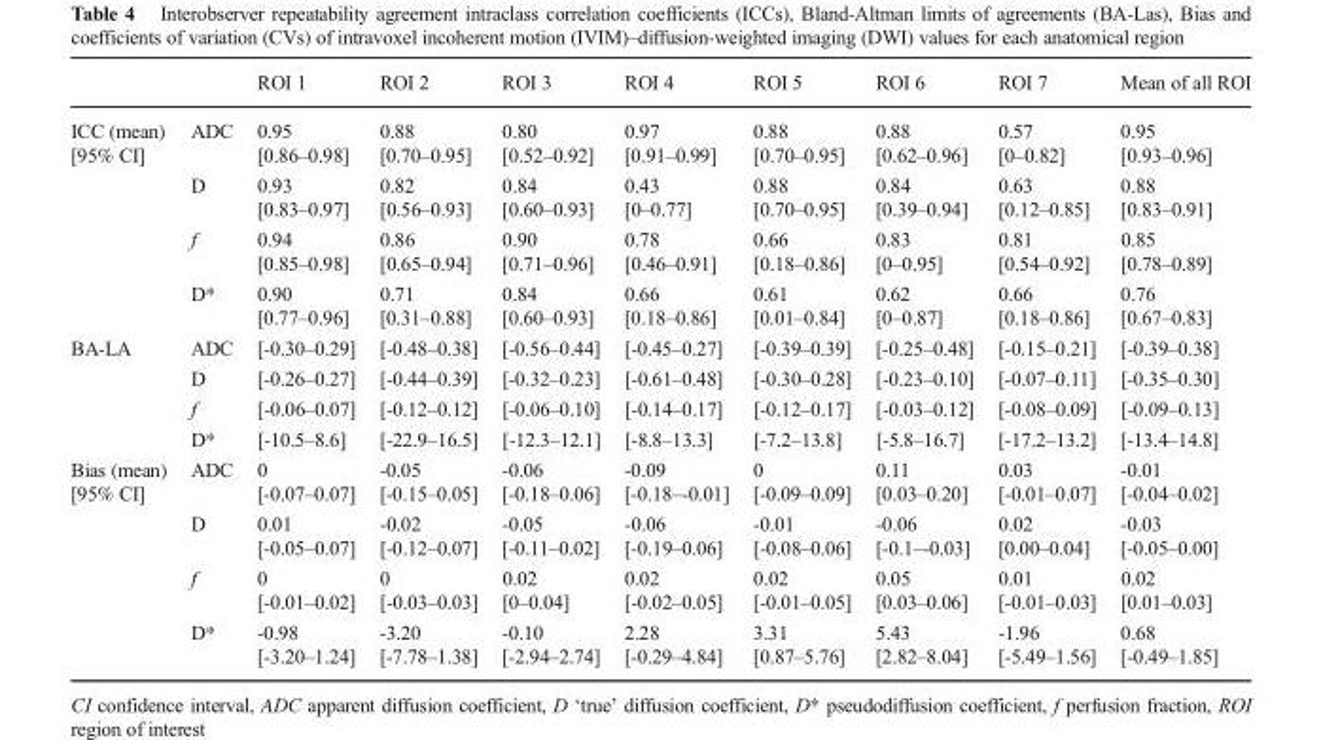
<table><thead><tr><td></td><td></td><td>ROI 1</td><td>ROI 2</td><td>ROI 3</td><td>ROI 4</td><td>ROI 5</td><td>ROI 6</td><td>ROI 7</td><td>Mean of all ROI</td></tr></thead><tbody><tr><td rowspan="4">ICC (mean) [95% CI]</td><td>ADC</td><td>0.95 [0.86–0.98]</td><td>0.88 [0.70–0.95]</td><td>0.80 [0.52–0.92]</td><td>0.97 [0.91–0.99]</td><td>0.88 [0.70–0.95]</td><td>0.88 [0.62–0.96]</td><td>0.57 [0–0.82]</td><td>0.95 [0.93–0.96]</td></tr><tr><td>D</td><td>0.93 [0.83–0.97]</td><td>0.82 [0.56–0.93]</td><td>0.84 [0.60–0.93]</td><td>0.43 [0–0.77]</td><td>0.88 [0.70–0.95]</td><td>0.84 [0.39–0.94]</td><td>0.63 [0.12–0.85]</td><td>0.88 [0.83–0.91]</td></tr><tr><td>f</td><td>0.94 [0.85–0.98]</td><td>0.86 [0.65–0.94]</td><td>0.90 [0.71–0.96]</td><td>0.78 [0.46–0.91]</td><td>0.66 [0.18–0.86]</td><td>0.83 [0–0.95]</td><td>0.81 [0.54–0.92]</td><td>0.85 [0.78–0.89]</td></tr><tr><td>D*</td><td>0.90 [0.77–0.96]</td><td>0.71 [0.31–0.88]</td><td>0.84 [0.60–0.93]</td><td>0.66 [0.18–0.86]</td><td>0.61 [0.01–0.84]</td><td>0.62 [0–0.87]</td><td>0.66 [0.18–0.86]</td><td>0.76 [0.67–0.83]</td></tr><tr><td rowspan="4">BA-LA</td><td>ADC</td><td>[-0.30–0.29]</td><td>[-0.48–0.38]</td><td>[-0.56–0.44]</td><td>[-0.45–0.27]</td><td>[-0.39–0.39]</td><td>[-0.25–0.48]</td><td>[-0.15–0.21]</td><td>[-0.39–0.38]</td></tr><tr><td>D</td><td>[-0.26–0.27]</td><td>[-0.44–0.39]</td><td>[-0.32–0.23]</td><td>[-0.61–0.48]</td><td>[-0.30–0.28]</td><td>[-0.23–0.10]</td><td>[-0.07–0.11]</td><td>[-0.35–0.30]</td></tr><tr><td>f</td><td>[-0.06–0.07]</td><td>[-0.12–0.12]</td><td>[-0.06–0.10]</td><td>[-0.14–0.17]</td><td>[-0.12–0.17]</td><td>[-0.03–0.12]</td><td>[-0.08–0.09]</td><td>[-0.09–0.13]</td></tr><tr><td>D*</td><td>[-10.5–8.6]</td><td>[-22.9–16.5]</td><td>[-12.3–12.1]</td><td>[-8.8–13.3]</td><td>[-7.2–13.8]</td><td>[-5.8–16.7]</td><td>[-17.2–13.2]</td><td>[-13.4–14.8]</td></tr><tr><td rowspan="4">Bias (mean) [95% CI]</td><td>ADC</td><td>0 [-0.07–0.07]</td><td>-0.05 [-0.15–0.05]</td><td>-0.06 [-0.18–0.06]</td><td>-0.09 [-0.18–-0.01]</td><td>0 [-0.09–0.09]</td><td>0.11 [0.03–0.20]</td><td>0.03 [-0.01–0.07]</td><td>-0.01 [-0.04–0.02]</td></tr><tr><td>D</td><td>0.01 [-0.05–0.07]</td><td>-0.02 [-0.12–0.07]</td><td>-0.05 [-0.11–0.02]</td><td>-0.06 [-0.19–0.06]</td><td>-0.01 [-0.08–0.06]</td><td>-0.06 [-0.1–-0.03]</td><td>0.02 [0.00–0.04]</td><td>-0.03 [-0.05–0.00]</td></tr><tr><td>f</td><td>0 [-0.01–0.02]</td><td>0 [-0.03–0.03]</td><td>0.02 [0–0.04]</td><td>0.02 [-0.02–0.05]</td><td>0.02 [-0.01–0.05]</td><td>0.05 [0.03–0.06]</td><td>0.01 [-0.01–0.03]</td><td>0.02 [0.01–0.03]</td></tr><tr><td>D*</td><td>-0.98 [-3.20–1.24]</td><td>-3.20 [-7.78–1.38]</td><td>-0.10 [-2.94–2.74]</td><td>2.28 [-0.29–4.84]</td><td>3.31 [0.87–5.76]</td><td>5.43 [2.82–8.04]</td><td>-1.96 [-5.49–1.56]</td><td>0.68 [-0.49–1.85]</td></tr></tbody></table>